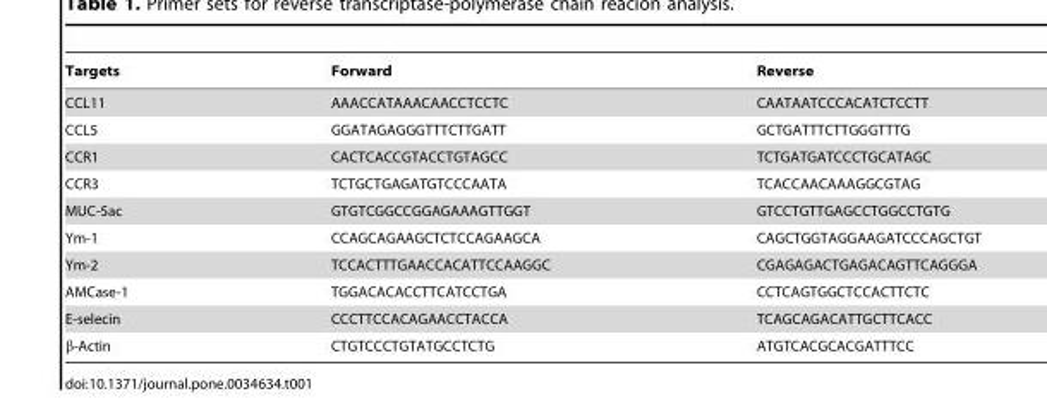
<table><thead><tr><td>Targets</td><td>Forward</td><td>Reverse</td></tr></thead><tbody><tr><td>CCL11</td><td>AAACCATAAACAACCTCCTC</td><td>CAATAATCCCACATCTCCTT</td></tr><tr><td>CCL5</td><td>GGATAGAGGGTTTCTTGATT</td><td>GCTGATTTCTTGGGTTTG</td></tr><tr><td>CCR1</td><td>CACTCACCGTACCTGTAGCC</td><td>TCTGATGATCCCTGCATAGC</td></tr><tr><td>CCR3</td><td>TCTGCTGAGATGTCCCAATA</td><td>TCACCAACAAAGGCGTAG</td></tr><tr><td>MUC-5ac</td><td>GTGTCGGCCGGAGAAAGTTGGT</td><td>GTCCTGTTGAGCCTGGCCTGTG</td></tr><tr><td>Ym-1</td><td>CCAGCAGAAGCTCTCCAGAAGCA</td><td>CAGCTGGTAGGAAGATCCCAGCTGT</td></tr><tr><td>Ym-2</td><td>TCCACTTTGAACCACATTCCAAGGC</td><td>CGAGAGACTGAGACAGTTCAGGGA</td></tr><tr><td>AMCase-1</td><td>TGGACACACCTTCATCCTGA</td><td>CCTCAGTGGCTCCACTTCTC</td></tr><tr><td>E-selecin</td><td>CCCTTCCACAGAACCTACCA</td><td>TCAGCAGACATTGCTTCACC</td></tr><tr><td>β-Actin</td><td>CTGTCCCTGTATGCCTCTG</td><td>ATGTCACGCACGATTTCC</td></tr></tbody></table>